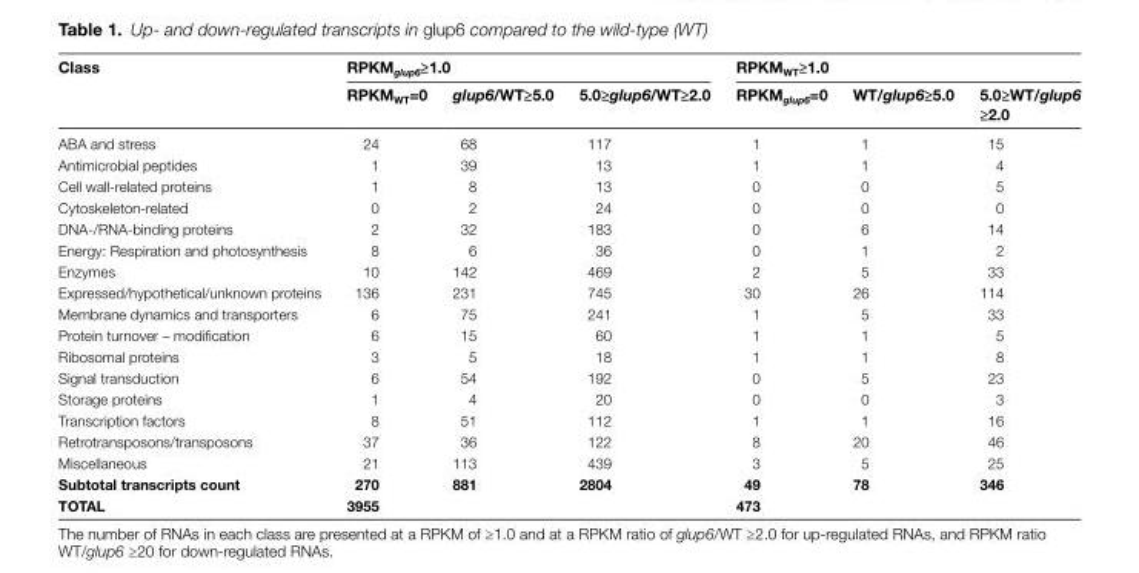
<table><thead><tr><td rowspan="2">Class</td><td colspan="3">RPKM<sub>glup6</sub>≥1.0</td><td colspan="3">RPKM<sub>WT</sub>≥1.0</td></tr><tr><td>RPKM<sub>WT</sub>=0</td><td>glup6/WT≥5.0</td><td>5.0≥glup6/WT≥2.0</td><td>RPKM<sub>glup6</sub>=0</td><td>WT/glup6≥5.0</td><td>5.0≥WT/glup6 ≥2.0</td></tr></thead><tbody><tr><td>ABA and stress</td><td>24</td><td>68</td><td>117</td><td>1</td><td>1</td><td>15</td></tr><tr><td>Antimicrobial peptides</td><td>1</td><td>39</td><td>13</td><td>1</td><td>1</td><td>4</td></tr><tr><td>Cell wall-related proteins</td><td>1</td><td>8</td><td>13</td><td>0</td><td>0</td><td>5</td></tr><tr><td>Cytoskeleton-related</td><td>0</td><td>2</td><td>24</td><td>0</td><td>0</td><td>0</td></tr><tr><td>DNA-/RNA-binding proteins</td><td>2</td><td>32</td><td>183</td><td>0</td><td>6</td><td>14</td></tr><tr><td>Energy: Respiration and photosynthesis</td><td>8</td><td>6</td><td>36</td><td>0</td><td>1</td><td>2</td></tr><tr><td>Enzymes</td><td>10</td><td>142</td><td>469</td><td>2</td><td>5</td><td>33</td></tr><tr><td>Expressed/hypothetical/unknown proteins</td><td>136</td><td>231</td><td>745</td><td>30</td><td>26</td><td>114</td></tr><tr><td>Membrane dynamics and transporters</td><td>6</td><td>75</td><td>241</td><td>1</td><td>5</td><td>33</td></tr><tr><td>Protein turnover – modification</td><td>6</td><td>15</td><td>60</td><td>1</td><td>1</td><td>5</td></tr><tr><td>Ribosomal proteins</td><td>3</td><td>5</td><td>18</td><td>1</td><td>1</td><td>8</td></tr><tr><td>Signal transduction</td><td>6</td><td>54</td><td>192</td><td>0</td><td>5</td><td>23</td></tr><tr><td>Storage proteins</td><td>1</td><td>4</td><td>20</td><td>0</td><td>0</td><td>3</td></tr><tr><td>Transcription factors</td><td>8</td><td>51</td><td>112</td><td>1</td><td>1</td><td>16</td></tr><tr><td>Retrotransposons/transposons</td><td>37</td><td>36</td><td>122</td><td>8</td><td>20</td><td>46</td></tr><tr><td>Miscellaneous</td><td>21</td><td>113</td><td>439</td><td>3</td><td>5</td><td>25</td></tr><tr><td>Subtotal transcripts count</td><td>270</td><td>881</td><td>2804</td><td>49</td><td>78</td><td>346</td></tr><tr><td>TOTAL</td><td colspan="3">3955</td><td colspan="3">473</td></tr></tbody></table>